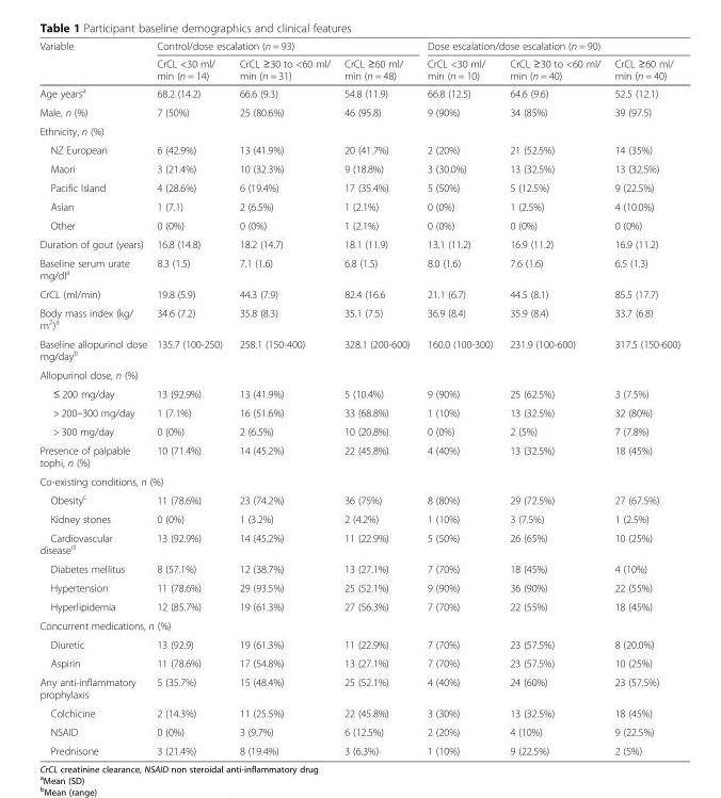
<table><thead><tr><td rowspan="2">Variable</td><td colspan="3">Control/dose escalation (n = 93)</td><td colspan="3">Dose escalation/dose escalation (n = 90)</td></tr><tr><td>CrCL &lt;30 ml/ min (n = 14)</td><td>CrCL ≥30 to &lt;60 ml/ min (n = 31)</td><td>CrCL ≥60 ml/ min (n = 48)</td><td>CrCL &lt;30 ml/ min (n = 10)</td><td>CrCL ≥30 to &lt;60 ml/ min (n = 40)</td><td>CrCL ≥60 ml/ min (n = 40)</td></tr></thead><tbody><tr><td>Age years<sup>a</sup></td><td>68.2 (14.2)</td><td>66.6 (9.3)</td><td>54.8 (11.9)</td><td>66.8 (12.5)</td><td>64.6 (9.6)</td><td>52.5 (12.1)</td></tr><tr><td>Male, n (%)</td><td>7 (50%)</td><td>25 (80.6%)</td><td>46 (95.8)</td><td>9 (90%)</td><td>34 (85%)</td><td>39 (97.5)</td></tr><tr><td colspan="7">Ethnicity, n (%)</td></tr><tr><td>NZ European</td><td>6 (42.9%)</td><td>13 (41.9%)</td><td>20 (41.7%)</td><td>2 (20%)</td><td>21 (52.5%)</td><td>14 (35%)</td></tr><tr><td>Maori</td><td>3 (21.4%)</td><td>10 (32.3%)</td><td>9 (18.8%)</td><td>3 (30.0%)</td><td>13 (32.5%)</td><td>13 (32.5%)</td></tr><tr><td>Pacific Island</td><td>4 (28.6%)</td><td>6 (19.4%)</td><td>17 (35.4%)</td><td>5 (50%)</td><td>5 (12.5%)</td><td>9 (22.5%)</td></tr><tr><td>Asian</td><td>1 (7.1)</td><td>2 (6.5%)</td><td>1 (2.1%)</td><td>0 (0%)</td><td>1 (2.5%)</td><td>4 (10.0%)</td></tr><tr><td>Other</td><td>0 (0%)</td><td>0 (0%)</td><td>1 (2.1%)</td><td>0 (0%)</td><td>0 (0%)</td><td>0 (0%)</td></tr><tr><td>Duration of gout (years)</td><td>16.8 (14.8)</td><td>18.2 (14.7)</td><td>18.1 (11.9)</td><td>13.1 (11.2)</td><td>16.9 (11.2)</td><td>16.9 (11.2)</td></tr><tr><td>Baseline serum urate mg/dl<sup>a</sup></td><td>8.3 (1.5)</td><td>7.1 (1.6)</td><td>6.8 (1.5)</td><td>8.0 (1.6)</td><td>7.6 (1.6)</td><td>6.5 (1.3)</td></tr><tr><td>CrCL (ml/min)</td><td>19.8 (5.9)</td><td>44.3 (7.9)</td><td>82.4 (16.6</td><td>21.1 (6.7)</td><td>44.5 (8.1)</td><td>85.5 (17.7)</td></tr><tr><td>Body mass index (kg/ m<sup>2</sup>)<sup>a</sup></td><td>34.6 (7.2)</td><td>35.8 (8.3)</td><td>35.1 (7.5)</td><td>36.9 (8.4)</td><td>35.9 (8.4)</td><td>33.7 (6.8)</td></tr><tr><td>Baseline allopurinol dose mg/day<sup>b</sup></td><td>135.7 (100-250)</td><td>258.1 (150-400)</td><td>328.1 (200-600)</td><td>160.0 (100-300)</td><td>231.9 (100-600)</td><td>317.5 (150-600)</td></tr><tr><td colspan="7">Allopurinol dose, n (%)</td></tr><tr><td>≤ 200 mg/day</td><td>13 (92.9%)</td><td>13 (41.9%)</td><td>5 (10.4%)</td><td>9 (90%)</td><td>25 (62.5%)</td><td>3 (7.5%)</td></tr><tr><td>&gt; 200–300 mg/day</td><td>1 (7.1%)</td><td>16 (51.6%)</td><td>33 (68.8%)</td><td>1 (10%)</td><td>13 (32.5%)</td><td>32 (80%)</td></tr><tr><td>&gt; 300 mg/day</td><td>0 (0%)</td><td>2 (6.5%)</td><td>10 (20.8%)</td><td>0 (0%)</td><td>2 (5%)</td><td>7 (7.8%)</td></tr><tr><td>Presence of palpable tophi, n (%)</td><td>10 (71.4%)</td><td>14 (45.2%)</td><td>22 (45.8%)</td><td>4 (40%)</td><td>13 (32.5%)</td><td>18 (45%)</td></tr><tr><td colspan="7">Co-existing conditions, n (%)</td></tr><tr><td>Obesity<sup>c</sup></td><td>11 (78.6%)</td><td>23 (74.2%)</td><td>36 (75%)</td><td>8 (80%)</td><td>29 (72.5%)</td><td>27 (67.5%)</td></tr><tr><td>Kidney stones</td><td>0 (0%)</td><td>1 (3.2%)</td><td>2 (4.2%)</td><td>1 (10%)</td><td>3 (7.5%)</td><td>1 (2.5%)</td></tr><tr><td>Cardiovascular disease<sup>d</sup></td><td>13 (92.9%)</td><td>14 (45.2%)</td><td>11 (22.9%)</td><td>5 (50%)</td><td>26 (65%)</td><td>10 (25%)</td></tr><tr><td>Diabetes mellitus</td><td>8 (57.1%)</td><td>12 (38.7%)</td><td>13 (27.1%)</td><td>7 (70%)</td><td>18 (45%)</td><td>4 (10%)</td></tr><tr><td>Hypertension</td><td>11 (78.6%)</td><td>29 (93.5%)</td><td>25 (52.1%)</td><td>9 (90%)</td><td>36 (90%)</td><td>22 (55%)</td></tr><tr><td>Hyperlipidemia</td><td>12 (85.7%)</td><td>19 (61.3%)</td><td>27 (56.3%)</td><td>7 (70%)</td><td>22 (55%)</td><td>18 (45%)</td></tr><tr><td colspan="7">Concurrent medications, n (%)</td></tr><tr><td>Diuretic</td><td>13 (92.9)</td><td>19 (61.3%)</td><td>11 (22.9%)</td><td>7 (70%)</td><td>23 (57.5%)</td><td>8 (20.0%)</td></tr><tr><td>Aspirin</td><td>11 (78.6%)</td><td>17 (54.8%)</td><td>13 (27.1%)</td><td>7 (70%)</td><td>23 (57.5%)</td><td>10 (25%)</td></tr><tr><td>Any anti-inflammatory prophylaxis</td><td>5 (35.7%)</td><td>15 (48.4%)</td><td>25 (52.1%)</td><td>4 (40%)</td><td>24 (60%)</td><td>23 (57.5%)</td></tr><tr><td>Colchicine</td><td>2 (14.3%)</td><td>11 (25.5%)</td><td>22 (45.8%)</td><td>3 (30%)</td><td>13 (32.5%)</td><td>18 (45%)</td></tr><tr><td>NSAID</td><td>0 (0%)</td><td>3 (9.7%)</td><td>6 (12.5%)</td><td>2 (20%)</td><td>4 (10%)</td><td>9 (22.5%)</td></tr><tr><td>Prednisone</td><td>3 (21.4%)</td><td>8 (19.4%)</td><td>3 (6.3%)</td><td>1 (10%)</td><td>9 (22.5%)</td><td>2 (5%)</td></tr></tbody></table>